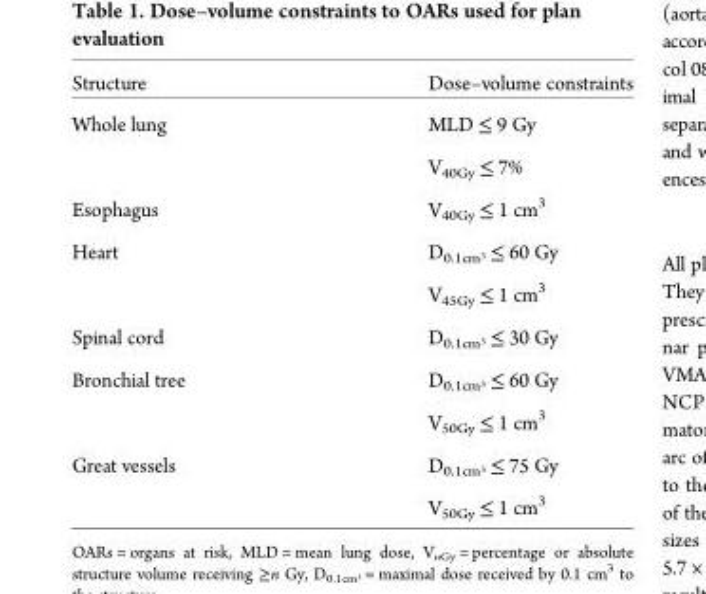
<table><thead><tr><td>Structure</td><td>Dose–volume constraints</td></tr></thead><tbody><tr><td rowspan="2">Whole lung</td><td>MLD ≤ 9 Gy</td></tr><tr><td>V<sub>40Gy</sub> ≤ 7%</td></tr><tr><td>Esophagus</td><td>V<sub>40Gy</sub> ≤ 1 cm<sup>3</sup></td></tr><tr><td rowspan="2">Heart</td><td>D<sub>0.1cm</sub><sup><sub>3</sub></sup> ≤ 60 Gy</td></tr><tr><td>V<sub>45Gy</sub> ≤ 1 cm<sup>3</sup></td></tr><tr><td>Spinal cord</td><td>D<sub>0.1cm</sub><sup><sub>3</sub></sup> ≤ 30 Gy</td></tr><tr><td rowspan="2">Bronchial tree</td><td>D<sub>0.1cm</sub><sup><sub>3</sub></sup> ≤ 60 Gy</td></tr><tr><td>V<sub>50Gy</sub> ≤ 1 cm<sup>3</sup></td></tr><tr><td rowspan="2">Great vessels</td><td>D<sub>0.1cm</sub><sup><sub>3</sub></sup> ≤ 75 Gy</td></tr><tr><td>V<sub>50Gy</sub> ≤ 1 cm<sup>3</sup></td></tr></tbody></table>